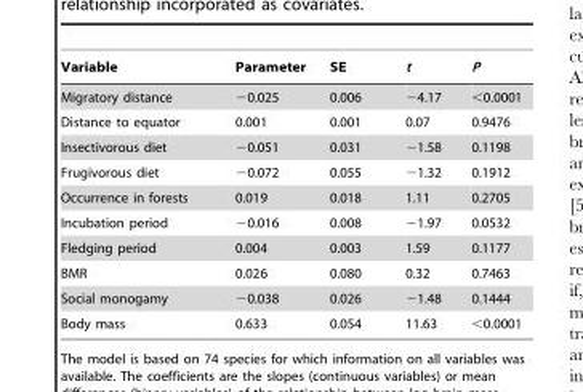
<table><thead><tr><td>Variable</td><td>Parameter</td><td>SE</td><td>t</td><td>P</td></tr></thead><tbody><tr><td>Migratory distance</td><td>−0.025</td><td>0.006</td><td>−4.17</td><td>&lt;0.0001</td></tr><tr><td>Distance to equator</td><td>0.001</td><td>0.001</td><td>0.07</td><td>0.9476</td></tr><tr><td>Insectivorous diet</td><td>−0.051</td><td>0.031</td><td>−1.58</td><td>0.1198</td></tr><tr><td>Frugivorous diet</td><td>−0.072</td><td>0.055</td><td>−1.32</td><td>0.1912</td></tr><tr><td>Occurrence in forests</td><td>0.019</td><td>0.018</td><td>1.11</td><td>0.2705</td></tr><tr><td>Incubation period</td><td>−0.016</td><td>0.008</td><td>−1.97</td><td>0.0532</td></tr><tr><td>Fledging period</td><td>0.004</td><td>0.003</td><td>1.59</td><td>0.1177</td></tr><tr><td>BMR</td><td>0.026</td><td>0.080</td><td>0.32</td><td>0.7463</td></tr><tr><td>Social monogamy</td><td>−0.038</td><td>0.026</td><td>−1.48</td><td>0.1444</td></tr><tr><td>Body mass</td><td>0.633</td><td>0.054</td><td>11.63</td><td>&lt;0.0001</td></tr></tbody></table>